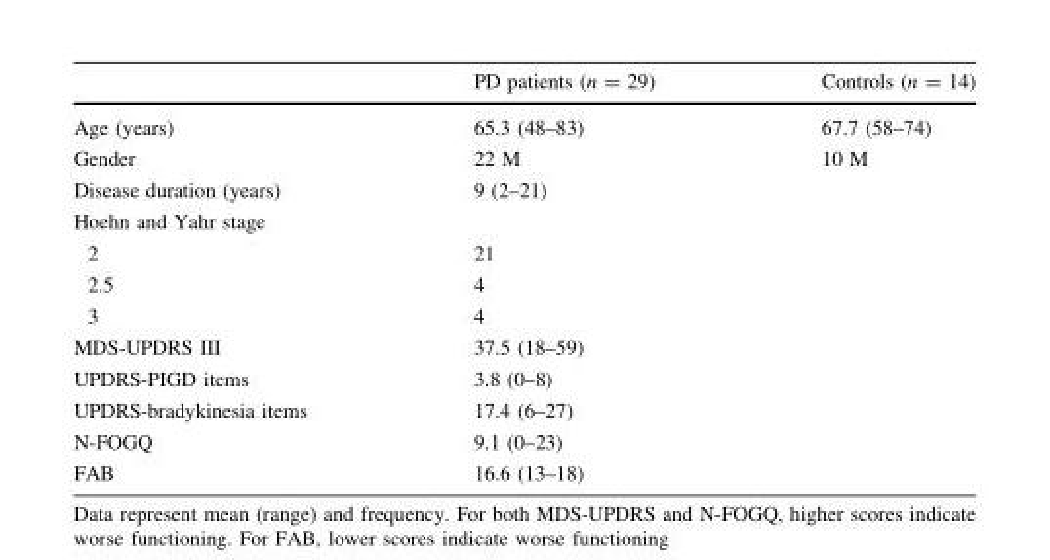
<table><thead><tr><td></td><td>PD patients (n = 29)</td><td>Controls (n = 14)</td></tr></thead><tbody><tr><td>Age (years)</td><td>65.3 (48–83)</td><td>67.7 (58–74)</td></tr><tr><td>Gender</td><td>22 M</td><td>10 M</td></tr><tr><td>Disease duration (years)</td><td>9 (2–21)</td><td></td></tr><tr><td colspan="3">Hoehn and Yahr stage</td></tr><tr><td>2</td><td>21</td><td></td></tr><tr><td>2.5</td><td>4</td><td></td></tr><tr><td>3</td><td>4</td><td></td></tr><tr><td>MDS-UPDRS III</td><td>37.5 (18–59)</td><td></td></tr><tr><td>UPDRS-PIGD items</td><td>3.8 (0–8)</td><td></td></tr><tr><td>UPDRS-bradykinesia items</td><td>17.4 (6–27)</td><td></td></tr><tr><td>N-FOGQ</td><td>9.1 (0–23)</td><td></td></tr><tr><td>FAB</td><td>16.6 (13–18)</td><td></td></tr></tbody></table>